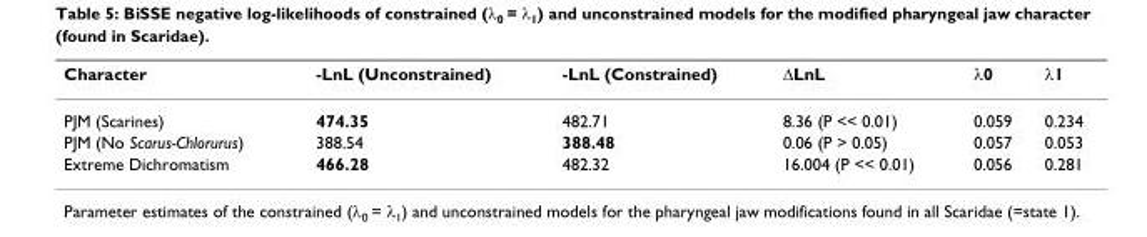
<table><thead><tr><td>Character</td><td>-LnL (Unconstrained)</td><td>-LnL (Constrained)</td><td>ΔLnL</td><td>λ0</td><td>λ1</td></tr></thead><tbody><tr><td>PJM (Scarines)</td><td>474.35</td><td>482.71</td><td>8.36 (P &lt;&lt; 0.01)</td><td>0.059</td><td>0.234</td></tr><tr><td>PJM (No Scarus-Chlorurus)</td><td>388.54</td><td>388.48</td><td>0.06 (P &gt; 0.05)</td><td>0.057</td><td>0.053</td></tr><tr><td>Extreme Dichromatism</td><td>466.28</td><td>482.32</td><td>16.004 (P &lt;&lt; 0.01)</td><td>0.056</td><td>0.281</td></tr></tbody></table>